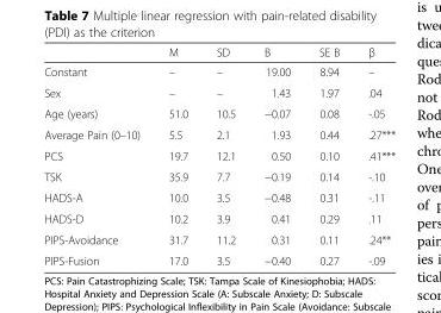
<table><thead><tr><td></td><td>M</td><td>SD</td><td>B</td><td>SE B</td><td>β</td></tr></thead><tbody><tr><td>Constant</td><td>–</td><td>–</td><td>19.00</td><td>8.94</td><td>–</td></tr><tr><td>Sex</td><td>–</td><td>–</td><td>1.43</td><td>1.97</td><td>.04</td></tr><tr><td>Age (years)</td><td>51.0</td><td>10.5</td><td>−0.07</td><td>0.08</td><td>-.05</td></tr><tr><td>Average Pain (0–10)</td><td>5.5</td><td>2.1</td><td>1.93</td><td>0.44</td><td>.27***</td></tr><tr><td>PCS</td><td>19.7</td><td>12.1</td><td>0.50</td><td>0.10</td><td>.41***</td></tr><tr><td>TSK</td><td>35.9</td><td>7.7</td><td>−0.19</td><td>0.14</td><td>-.10</td></tr><tr><td>HADS-A</td><td>10.0</td><td>3.5</td><td>−0.48</td><td>0.31</td><td>-.11</td></tr><tr><td>HADS-D</td><td>10.2</td><td>3.9</td><td>0.41</td><td>0.29</td><td>.11</td></tr><tr><td>PIPS-Avoidance</td><td>31.7</td><td>11.2</td><td>0.31</td><td>0.11</td><td>.24**</td></tr><tr><td>PIPS-Fusion</td><td>17.0</td><td>3.5</td><td>−0.40</td><td>0.27</td><td>-.09</td></tr></tbody></table>